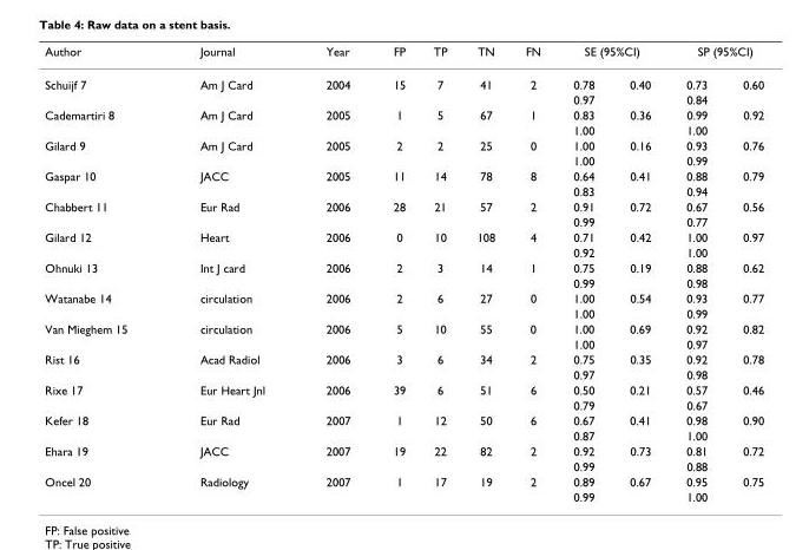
<table><thead><tr><td rowspan="2">Author Schuijf 7</td><td rowspan="2">Journal Am J Card</td><td rowspan="2">Year 2004</td><td rowspan="2">FP 15</td><td rowspan="2">TP 7</td><td rowspan="2">TN 41</td><td rowspan="2">FN 2</td><td colspan="2">SE (95%CI)</td><td colspan="2">SP (95%CI)</td></tr><tr><td>0.78</td><td>0.40</td><td>0.73</td><td>0.60</td></tr></thead><tbody><tr><td></td><td></td><td></td><td></td><td></td><td></td><td></td><td>0.97</td><td></td><td>0.84</td><td></td></tr><tr><td rowspan="2">Cademartiri 8</td><td>Am J Card</td><td>2005</td><td>1</td><td>5</td><td>67</td><td>1</td><td>0.83</td><td>0.36</td><td>0.99</td><td>0.92</td></tr><tr><td></td><td></td><td></td><td></td><td></td><td></td><td>1.00</td><td></td><td>1.00</td><td></td></tr><tr><td rowspan="2">Gilard 9</td><td>Am J Card</td><td>2005</td><td>2</td><td>2</td><td>25</td><td>0</td><td>1.00</td><td>0.16</td><td>0.93</td><td>0.76</td></tr><tr><td></td><td></td><td></td><td></td><td></td><td></td><td>1.00</td><td></td><td>0.99</td><td></td></tr><tr><td rowspan="2">Gaspar 10</td><td>JACC</td><td>2005</td><td>11</td><td>14</td><td>78</td><td>8</td><td>0.64</td><td>0.41</td><td>0.88</td><td>0.79</td></tr><tr><td></td><td></td><td></td><td></td><td></td><td></td><td>0.83</td><td></td><td>0.94</td><td></td></tr><tr><td rowspan="2">Chabbert 11</td><td>Eur Rad</td><td>2006</td><td>28</td><td>21</td><td>57</td><td>2</td><td>0.91</td><td>0.72</td><td>0.67</td><td>0.56</td></tr><tr><td></td><td></td><td></td><td></td><td></td><td></td><td>0.99</td><td></td><td>0.77</td><td></td></tr><tr><td rowspan="2">Gilard 12</td><td>Heart</td><td>2006</td><td>0</td><td>10</td><td>108</td><td>4</td><td>0.71</td><td>0.42</td><td>1.00</td><td>0.97</td></tr><tr><td></td><td></td><td></td><td></td><td></td><td></td><td>0.92</td><td></td><td>1.00</td><td></td></tr><tr><td rowspan="2">Ohnuki 13</td><td>Int J card</td><td>2006</td><td>2</td><td>3</td><td>14</td><td>1</td><td>0.75</td><td>0.19</td><td>0.88</td><td>0.62</td></tr><tr><td></td><td></td><td></td><td></td><td></td><td></td><td>0.99</td><td></td><td>0.98</td><td></td></tr><tr><td rowspan="2">Watanabe 14</td><td>circulation</td><td>2006</td><td>2</td><td>6</td><td>27</td><td>0</td><td>1.00</td><td>0.54</td><td>0.93</td><td>0.77</td></tr><tr><td></td><td></td><td></td><td></td><td></td><td></td><td>1.00</td><td></td><td>0.99</td><td></td></tr><tr><td rowspan="2">Van Mieghem 15</td><td>circulation</td><td>2006</td><td>5</td><td>10</td><td>55</td><td>0</td><td>1.00</td><td>0.69</td><td>0.92</td><td>0.82</td></tr><tr><td></td><td></td><td></td><td></td><td></td><td></td><td>1.00</td><td></td><td>0.97</td><td></td></tr><tr><td rowspan="2">Rist 16</td><td>Acad Radiol</td><td>2006</td><td>3</td><td>6</td><td>34</td><td>2</td><td>0.75</td><td>0.35</td><td>0.92</td><td>0.78</td></tr><tr><td></td><td></td><td></td><td></td><td></td><td></td><td>0.97</td><td></td><td>0.98</td><td></td></tr><tr><td rowspan="2">Rixe 17</td><td>Eur Heart Jnl</td><td>2006</td><td>39</td><td>6</td><td>51</td><td>6</td><td>0.50</td><td>0.21</td><td>0.57</td><td>0.46</td></tr><tr><td></td><td></td><td></td><td></td><td></td><td></td><td>0.79</td><td></td><td>0.67</td><td></td></tr><tr><td rowspan="2">Kefer 18</td><td>Eur Rad</td><td>2007</td><td>1</td><td>12</td><td>50</td><td>6</td><td>0.67</td><td>0.41</td><td>0.98</td><td>0.90</td></tr><tr><td></td><td></td><td></td><td></td><td></td><td></td><td>0.87</td><td></td><td>1.00</td><td></td></tr><tr><td rowspan="2">Ehara 19</td><td>JACC</td><td>2007</td><td>19</td><td>22</td><td>82</td><td>2</td><td>0.92</td><td>0.73</td><td>0.81</td><td>0.72</td></tr><tr><td></td><td></td><td></td><td></td><td></td><td></td><td>0.99</td><td></td><td>0.88</td><td></td></tr><tr><td rowspan="2">Oncel 20</td><td>Radiology</td><td>2007</td><td>1</td><td>17</td><td>19</td><td>2</td><td>0.89</td><td>0.67</td><td>0.95</td><td>0.75</td></tr><tr><td></td><td></td><td></td><td></td><td></td><td></td><td>0.99</td><td></td><td>1.00</td><td></td></tr></tbody></table>